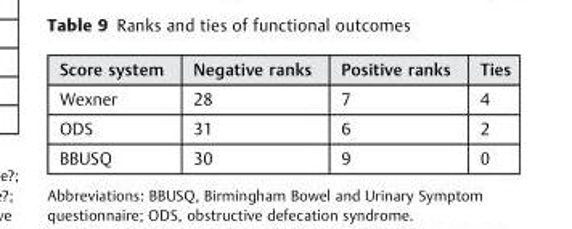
<table><thead><tr><td>Score system</td><td>Negative ranks</td><td>Positive ranks</td><td>Ties</td></tr></thead><tbody><tr><td>Wexner</td><td>28</td><td>7</td><td>4</td></tr><tr><td>ODS</td><td>31</td><td>6</td><td>2</td></tr><tr><td>BBUSQ</td><td>30</td><td>9</td><td>0</td></tr></tbody></table>